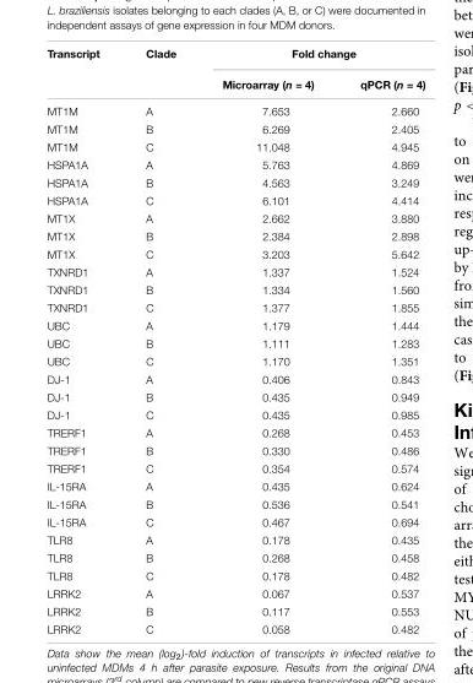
<table><thead><tr><td rowspan="2">Transcript</td><td rowspan="2">Clade</td><td colspan="2">Fold change</td></tr><tr><td>Microarray (n = 4)</td><td>qPCR (n = 4)</td></tr></thead><tbody><tr><td>MT1M</td><td>A</td><td>7.653</td><td>2.660</td></tr><tr><td>MT1M</td><td>B</td><td>6.269</td><td>2.405</td></tr><tr><td>MT1M</td><td>C</td><td>11.048</td><td>4.945</td></tr><tr><td>HSPA1A</td><td>A</td><td>5.763</td><td>4.869</td></tr><tr><td>HSPA1A</td><td>B</td><td>4.563</td><td>3.249</td></tr><tr><td>HSPA1A</td><td>C</td><td>6.101</td><td>4.414</td></tr><tr><td>MT1X</td><td>A</td><td>2.662</td><td>3.880</td></tr><tr><td>MT1X</td><td>B</td><td>2.384</td><td>2.898</td></tr><tr><td>MT1X</td><td>C</td><td>3.203</td><td>5.642</td></tr><tr><td>TXNRD1</td><td>A</td><td>1.337</td><td>1.524</td></tr><tr><td>TXNRD1</td><td>B</td><td>1.334</td><td>1.560</td></tr><tr><td>TXNRD1</td><td>C</td><td>1.377</td><td>1.855</td></tr><tr><td>UBC</td><td>A</td><td>1.179</td><td>1.444</td></tr><tr><td>UBC</td><td>B</td><td>1.111</td><td>1.283</td></tr><tr><td>UBC</td><td>C</td><td>1.170</td><td>1.351</td></tr><tr><td>DJ-1</td><td>A</td><td>0.406</td><td>0.843</td></tr><tr><td>DJ-1</td><td>B</td><td>0.435</td><td>0.949</td></tr><tr><td>DJ-1</td><td>C</td><td>0.435</td><td>0.985</td></tr><tr><td>TRERF1</td><td>A</td><td>0.268</td><td>0.453</td></tr><tr><td>TRERF1</td><td>B</td><td>0.330</td><td>0.486</td></tr><tr><td>TRERF1</td><td>C</td><td>0.354</td><td>0.574</td></tr><tr><td>IL-15RA</td><td>A</td><td>0.435</td><td>0.624</td></tr><tr><td>IL-15RA</td><td>B</td><td>0.536</td><td>0.541</td></tr><tr><td>IL-15RA</td><td>C</td><td>0.467</td><td>0.694</td></tr><tr><td>TLR8</td><td>A</td><td>0.178</td><td>0.435</td></tr><tr><td>TLR8</td><td>B</td><td>0.268</td><td>0.458</td></tr><tr><td>TLR8</td><td>C</td><td>0.178</td><td>0.482</td></tr><tr><td>LRRK2</td><td>A</td><td>0.067</td><td>0.537</td></tr><tr><td>LRRK2</td><td>B</td><td>0.117</td><td>0.553</td></tr><tr><td>LRRK2</td><td>C</td><td>0.058</td><td>0.482</td></tr></tbody></table>